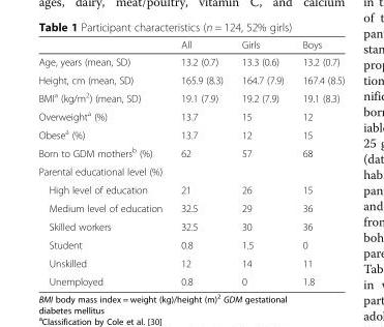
<table><thead><tr><td></td><td>All</td><td>Girls</td><td>Boys</td></tr></thead><tbody><tr><td>Age, years (mean, SD)</td><td>13.2 (0.7)</td><td>13.3 (0.6)</td><td>13.2 (0.7)</td></tr><tr><td>Height, cm (mean, SD)</td><td>165.9 (8.3)</td><td>164.7 (7.9)</td><td>167.4 (8.5)</td></tr><tr><td>BMI<sup>a</sup> (kg/m<sup>2</sup>) (mean, SD)</td><td>19.1 (7.9)</td><td>19.2 (7.9)</td><td>19.1 (8.3)</td></tr><tr><td>Overweight<sup>a</sup> (%)</td><td>13.7</td><td>15</td><td>12</td></tr><tr><td>Obese<sup>a</sup> (%)</td><td>13.7</td><td>12</td><td>15</td></tr><tr><td>Born to GDM mothers<sup>b</sup> (%)</td><td>62</td><td>57</td><td>68</td></tr><tr><td colspan="4">Parental educational level (%)</td></tr><tr><td>High level of education</td><td>21</td><td>26</td><td>15</td></tr><tr><td>Medium level of education</td><td>32.5</td><td>29</td><td>36</td></tr><tr><td>Skilled workers</td><td>32.5</td><td>30</td><td>36</td></tr><tr><td>Student</td><td>0.8</td><td>1.5</td><td>0</td></tr><tr><td>Unskilled</td><td>12</td><td>14</td><td>11</td></tr><tr><td>Unemployed</td><td>0.8</td><td>0</td><td>1.8</td></tr></tbody></table>